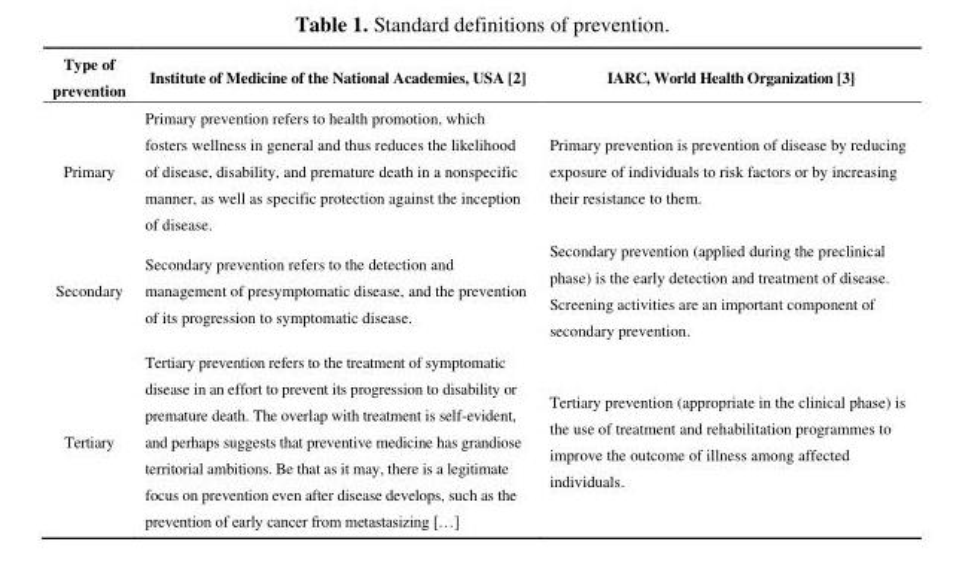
<table><thead><tr><td>Type of prevention</td><td>Institute of Medicine of the National Academies, USA [2]</td><td>IARC, World Health Organization [3]</td></tr></thead><tbody><tr><td>Primary</td><td>Primary prevention refers to health promotion, which fosters wellness in general and thus reduces the likelihood of disease, disability, and premature death in a nonspecific manner, as well as specific protection against the inception of disease.</td><td>Primary prevention is prevention of disease by reducing exposure of individuals to risk factors or by increasing their resistance to them.</td></tr><tr><td>Secondary</td><td>Secondary prevention refers to the detection and management of presymptomatic disease, and the prevention of its progression to symptomatic disease.</td><td>Secondary prevention (applied during the preclinical phase) is the early detection and treatment of disease. Screening activities are an important component of secondary prevention.</td></tr><tr><td>Tertiary</td><td>Tertiary prevention refers to the treatment of symptomatic disease in an effort to prevent its progression to disability or premature death. The overlap with treatment is self-evident, and perhaps suggests that preventive medicine has grandiose territorial ambitions. Be that as it may, there is a legitimate focus on prevention even after disease develops, such as the prevention of early cancer from metastasizing […]</td><td>Tertiary prevention (appropriate in the clinical phase) is the use of treatment and rehabilitation programmes to improve the outcome of illness among affected individuals.</td></tr></tbody></table>